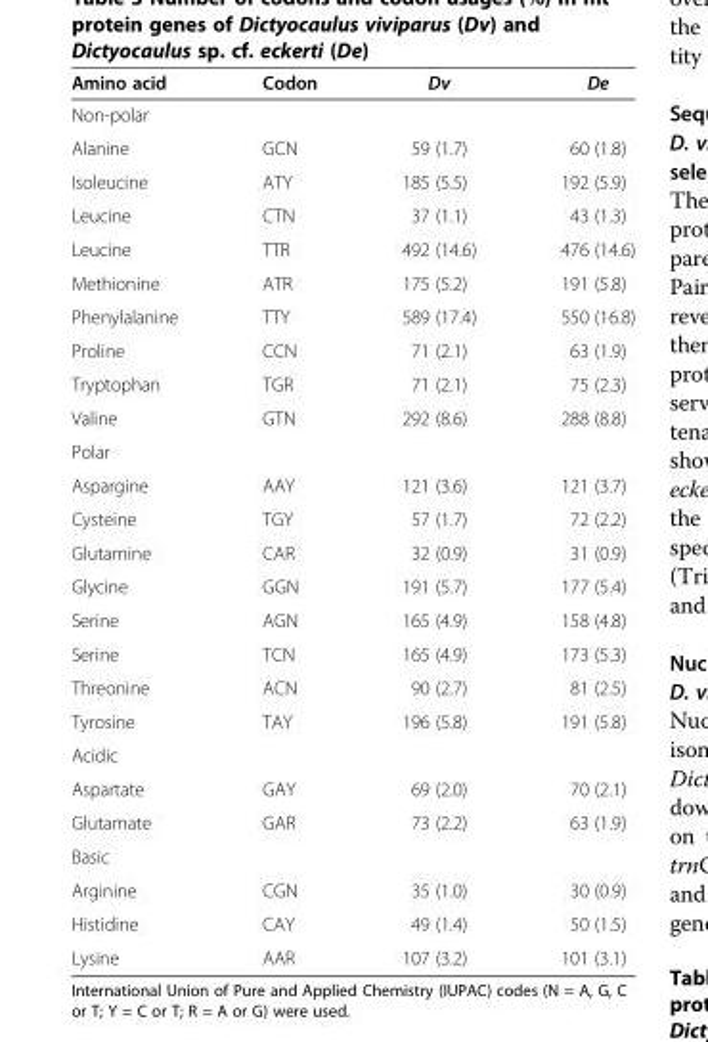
<table><thead><tr><td>Amino acid</td><td>Codon</td><td>Dv</td><td>De</td></tr></thead><tbody><tr><td colspan="4">Non-polar</td></tr><tr><td>Alanine</td><td>GCN</td><td>59 (1.7)</td><td>60 (1.8)</td></tr><tr><td>Isoleucine</td><td>ATY</td><td>185 (5.5)</td><td>192 (5.9)</td></tr><tr><td>Leucine</td><td>CTN</td><td>37 (1.1)</td><td>43 (1.3)</td></tr><tr><td>Leucine</td><td>TTR</td><td>492 (14.6)</td><td>476 (14.6)</td></tr><tr><td>Methionine</td><td>ATR</td><td>175 (5.2)</td><td>191 (5.8)</td></tr><tr><td>Phenylalanine</td><td>TTY</td><td>589 (17.4)</td><td>550 (16.8)</td></tr><tr><td>Proline</td><td>CCN</td><td>71 (2.1)</td><td>63 (1.9)</td></tr><tr><td>Tryptophan</td><td>TGR</td><td>71 (2.1)</td><td>75 (2.3)</td></tr><tr><td>Valine</td><td>GTN</td><td>292 (8.6)</td><td>288 (8.8)</td></tr><tr><td colspan="4">Polar</td></tr><tr><td>Aspargine</td><td>AAY</td><td>121 (3.6)</td><td>121 (3.7)</td></tr><tr><td>Cysteine</td><td>TGY</td><td>57 (1.7)</td><td>72 (2.2)</td></tr><tr><td>Glutamine</td><td>CAR</td><td>32 (0.9)</td><td>31 (0.9)</td></tr><tr><td>Glycine</td><td>GGN</td><td>191 (5.7)</td><td>177 (5.4)</td></tr><tr><td>Serine</td><td>AGN</td><td>165 (4.9)</td><td>158 (4.8)</td></tr><tr><td>Serine</td><td>TCN</td><td>165 (4.9)</td><td>173 (5.3)</td></tr><tr><td>Threonine</td><td>ACN</td><td>90 (2.7)</td><td>81 (2.5)</td></tr><tr><td>Tyrosine</td><td>TAY</td><td>196 (5.8)</td><td>191 (5.8)</td></tr><tr><td colspan="4">Acidic</td></tr><tr><td>Aspartate</td><td>GAY</td><td>69 (2.0)</td><td>70 (2.1)</td></tr><tr><td>Glutamate</td><td>GAR</td><td>73 (2.2)</td><td>63 (1.9)</td></tr><tr><td colspan="4">Basic</td></tr><tr><td>Arginine</td><td>CGN</td><td>35 (1.0)</td><td>30 (0.9)</td></tr><tr><td>Histidine</td><td>CAY</td><td>49 (1.4)</td><td>50 (1.5)</td></tr><tr><td>Lysine</td><td>AAR</td><td>107 (3.2)</td><td>101 (3.1)</td></tr></tbody></table>